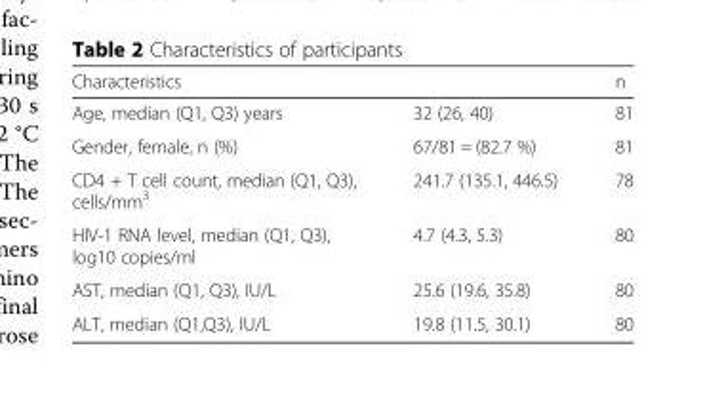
<table><thead><tr><td>Characteristics</td><td></td><td>n</td></tr></thead><tbody><tr><td>Age, median (Q1, Q3) years</td><td>32 (26, 40)</td><td>81</td></tr><tr><td>Gender, female, n (%)</td><td>67/81 = (82.7 %)</td><td>81</td></tr><tr><td>CD4 + T cell count, median (Q1, Q3), cells/mm<sup>3</sup></td><td>241.7 (135.1, 446.5)</td><td>78</td></tr><tr><td>HIV-1 RNA level, median (Q1, Q3), log10 copies/ml</td><td>4.7 (4.3, 5.3)</td><td>80</td></tr><tr><td>AST, median (Q1, Q3), IU/L</td><td>25.6 (19.6, 35.8)</td><td>80</td></tr><tr><td>ALT, median (Q1,Q3), IU/L</td><td>19.8 (11.5, 30.1)</td><td>80</td></tr></tbody></table>